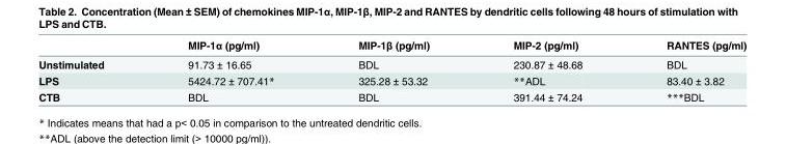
<table><thead><tr><td></td><td>MIP-1α (pg/ml)</td><td>MIP-1β (pg/ml)</td><td>MIP-2 (pg/ml)</td><td>RANTES (pg/ml)</td></tr></thead><tbody><tr><td>Unstimulated</td><td>91.73 ± 16.65</td><td>BDL</td><td>230.87 ± 48.68</td><td>BDL</td></tr><tr><td>LPS</td><td>5424.72 ± 707.41*</td><td>325.28 ± 53.32</td><td>**ADL</td><td>83.40 ± 3.82</td></tr><tr><td>CTB</td><td>BDL</td><td>BDL</td><td>391.44 ± 74.24</td><td>***BDL</td></tr></tbody></table>